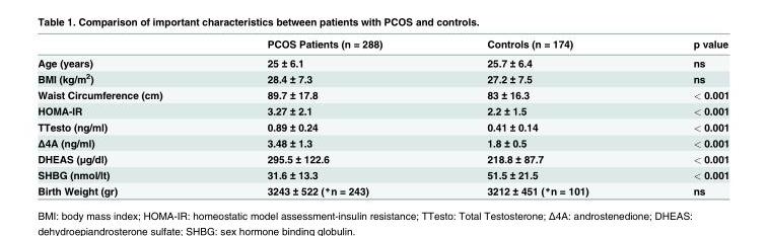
<table><thead><tr><td></td><td>PCOS Patients (n = 288)</td><td>Controls (n = 174)</td><td>p value</td></tr></thead><tbody><tr><td>Age (years)</td><td>25 ± 6.1</td><td>25.7 ± 6.4</td><td>ns</td></tr><tr><td>BMI (kg/m<sup>2</sup>)</td><td>28.4 ± 7.3</td><td>27.2 ± 7.5</td><td>ns</td></tr><tr><td>Waist Circumference (cm)</td><td>89.7 ± 17.8</td><td>83 ± 16.3</td><td>&lt; 0.001</td></tr><tr><td>HOMA-IR</td><td>3.27 ± 2.1</td><td>2.2 ± 1.5</td><td>&lt; 0.001</td></tr><tr><td>TTesto (ng/ml)</td><td>0.89 ± 0.24</td><td>0.41 ± 0.14</td><td>&lt; 0.001</td></tr><tr><td>Δ4A (ng/ml)</td><td>3.48 ± 1.3</td><td>1.8 ± 0.5</td><td>&lt; 0.001</td></tr><tr><td>DHEAS (μg/dl)</td><td>295.5 ± 122.6</td><td>218.8 ± 87.7</td><td>&lt; 0.001</td></tr><tr><td>SHBG (nmol/lt)</td><td>31.6 ± 13.3</td><td>51.5 ± 21.5</td><td>&lt; 0.001</td></tr><tr><td>Birth Weight (gr)</td><td>3243 ± 522 (*n = 243)</td><td>3212 ± 451 (*n = 101)</td><td>ns</td></tr></tbody></table>